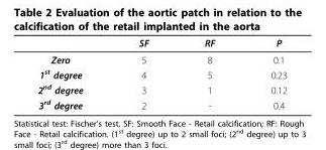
<table><thead><tr><td></td><td>SF</td><td>RF</td><td>P</td></tr></thead><tbody><tr><td>Zero</td><td>5</td><td>8</td><td>0.1</td></tr><tr><td>1<sup>st</sup> degree</td><td>4</td><td>5</td><td>0.23</td></tr><tr><td>2<sup>nd</sup> degree</td><td>3</td><td>1</td><td>0.12</td></tr><tr><td>3<sup>rd</sup> degree</td><td>2</td><td>-</td><td>0.4</td></tr></tbody></table>